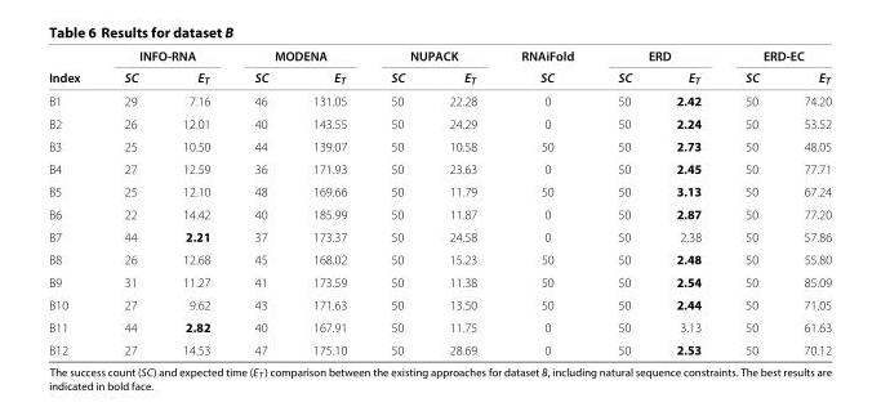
<table><thead><tr><td rowspan="2">Index</td><td colspan="2">INFO-RNA</td><td colspan="2">MODENA</td><td colspan="2">NUPACK</td><td rowspan="2">RNAiFold SC</td><td colspan="2">ERD</td><td colspan="2">ERD-EC</td></tr><tr><td>SC</td><td>E<sub>T</sub></td><td>SC</td><td>E<sub>T</sub></td><td>SC</td><td>E<sub>T</sub></td><td>SC</td><td>E<sub>T</sub></td><td>SC</td><td>E<sub>T</sub></td></tr></thead><tbody><tr><td>B1</td><td>29</td><td>7.16</td><td>46</td><td>131.05</td><td>50</td><td>22.28</td><td>0</td><td>50</td><td>2.42</td><td>50</td><td>74.20</td></tr><tr><td>B2</td><td>26</td><td>12.01</td><td>40</td><td>143.55</td><td>50</td><td>24.29</td><td>0</td><td>50</td><td>2.24</td><td>50</td><td>53.52</td></tr><tr><td>B3</td><td>25</td><td>10.50</td><td>44</td><td>139.07</td><td>50</td><td>10.58</td><td>50</td><td>50</td><td>2.73</td><td>50</td><td>48.05</td></tr><tr><td>B4</td><td>27</td><td>12.59</td><td>36</td><td>171.93</td><td>50</td><td>23.63</td><td>0</td><td>50</td><td>2.45</td><td>50</td><td>77.71</td></tr><tr><td>B5</td><td>25</td><td>12.10</td><td>48</td><td>169.66</td><td>50</td><td>11.79</td><td>50</td><td>50</td><td>3.13</td><td>50</td><td>67.24</td></tr><tr><td>B6</td><td>22</td><td>14.42</td><td>40</td><td>185.99</td><td>50</td><td>11.87</td><td>0</td><td>50</td><td>2.87</td><td>50</td><td>77.20</td></tr><tr><td>B7</td><td>44</td><td>2.21</td><td>37</td><td>173.37</td><td>50</td><td>24.58</td><td>0</td><td>50</td><td>2.38</td><td>50</td><td>57.86</td></tr><tr><td>B8</td><td>26</td><td>12.68</td><td>45</td><td>168.02</td><td>50</td><td>15.23</td><td>50</td><td>50</td><td>2.48</td><td>50</td><td>55.80</td></tr><tr><td>B9</td><td>31</td><td>11.27</td><td>41</td><td>173.59</td><td>50</td><td>11.38</td><td>50</td><td>50</td><td>2.54</td><td>50</td><td>85.09</td></tr><tr><td>B10</td><td>27</td><td>9.62</td><td>43</td><td>171.63</td><td>50</td><td>13.50</td><td>50</td><td>50</td><td>2.44</td><td>50</td><td>71.05</td></tr><tr><td>B11</td><td>44</td><td>2.82</td><td>40</td><td>167.91</td><td>50</td><td>11.75</td><td>0</td><td>50</td><td>3.13</td><td>50</td><td>61.63</td></tr><tr><td>B12</td><td>27</td><td>14.53</td><td>47</td><td>175.10</td><td>50</td><td>28.69</td><td>0</td><td>50</td><td>2.53</td><td>50</td><td>70.12</td></tr></tbody></table>